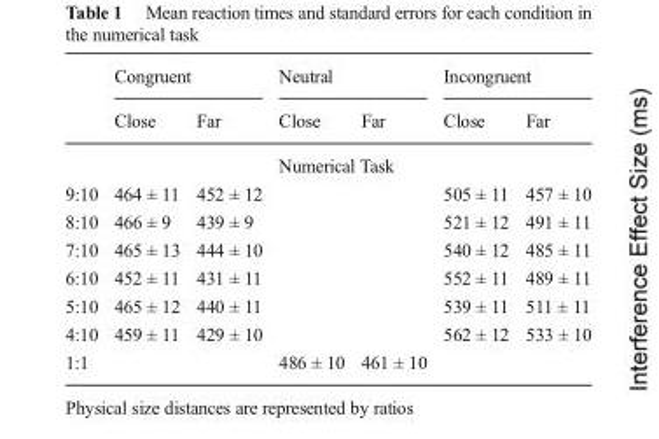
<table><thead><tr><td rowspan="2"></td><td colspan="2">Congruent</td><td colspan="2">Neutral</td><td colspan="2">Incongruent</td></tr><tr><td>Close</td><td>Far</td><td>Close</td><td>Far</td><td>Close</td><td>Far</td></tr></thead><tbody><tr><td></td><td></td><td></td><td colspan="2">Numerical Task</td><td></td><td></td></tr><tr><td>9:10</td><td>464 ± 11</td><td>452 ± 12</td><td></td><td></td><td>505 ± 11</td><td>457 ± 10</td></tr><tr><td>8:10</td><td>466 ± 9</td><td>439 ± 9</td><td></td><td></td><td>521 ± 12</td><td>491 ± 11</td></tr><tr><td>7:10</td><td>465 ± 13</td><td>444 ± 10</td><td></td><td></td><td>540 ± 12</td><td>485 ± 11</td></tr><tr><td>6:10</td><td>452 ± 11</td><td>431 ± 11</td><td></td><td></td><td>552 ± 11</td><td>489 ± 11</td></tr><tr><td>5:10</td><td>465 ± 12</td><td>440 ± 11</td><td></td><td></td><td>539 ± 11</td><td>511 ± 11</td></tr><tr><td>4:10</td><td>459 ± 11</td><td>429 ± 10</td><td></td><td></td><td>562 ± 12</td><td>533 ± 10</td></tr><tr><td>1:1</td><td></td><td></td><td>486 ± 10</td><td>461 ± 10</td><td></td><td></td></tr></tbody></table>